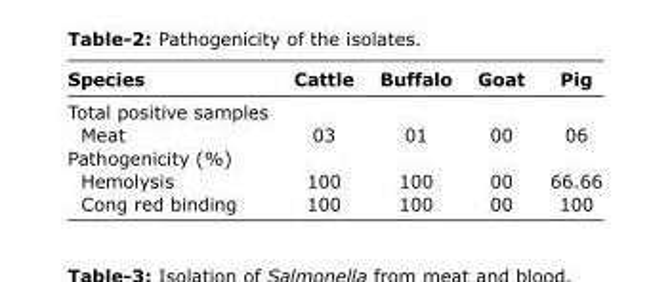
<table><thead><tr><td>Species</td><td>Cattle</td><td>Buffalo</td><td>Goat</td><td>Pig</td></tr></thead><tbody><tr><td colspan="5">Total positive samples</td></tr><tr><td>Meat</td><td>03</td><td>01</td><td>00</td><td>06</td></tr><tr><td colspan="5">Pathogenicity (%)</td></tr><tr><td>Hemolysis</td><td>100</td><td>100</td><td>00</td><td>66.66</td></tr><tr><td>Cong red binding</td><td>100</td><td>100</td><td>00</td><td>100</td></tr></tbody></table>